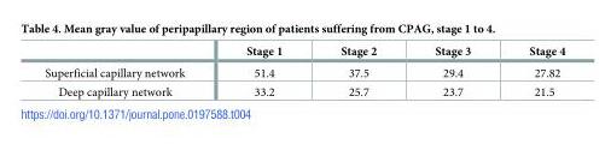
<table><thead><tr><td></td><td>Stage 1</td><td>Stage 2</td><td>Stage 3</td><td>Stage 4</td></tr></thead><tbody><tr><td>Superficial capillary network</td><td>51.4</td><td>37.5</td><td>29.4</td><td>27.82</td></tr><tr><td>Deep capillary network</td><td>33.2</td><td>25.7</td><td>23.7</td><td>21.5</td></tr></tbody></table>